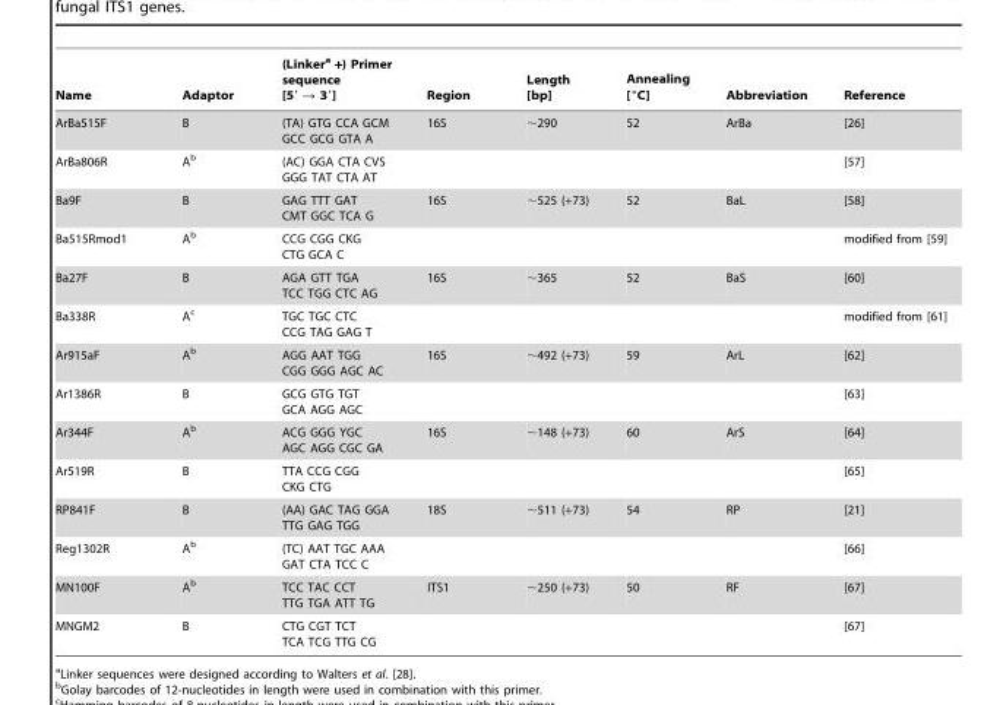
<table><thead><tr><td>Name</td><td>Adaptor</td><td>(Linker<sup>a</sup> +) Primer sequence [5′ → 3′]</td><td>Region</td><td>Length [bp]</td><td>Annealing [°C]</td><td>Abbreviation</td><td>Reference</td></tr></thead><tbody><tr><td>ArBa515F</td><td>B</td><td>(TA) GTG CCA GCM GCC GCG GTA A</td><td>16S</td><td>∼290</td><td>52</td><td>ArBa</td><td>[26]</td></tr><tr><td>ArBa806R</td><td>A<sup>b</sup></td><td>(AC) GGA CTA CVS GGG TAT CTA AT</td><td></td><td></td><td></td><td></td><td>[57]</td></tr><tr><td>Ba9F</td><td>B</td><td>GAG TTT GAT CMT GGC TCA G</td><td>16S</td><td>∼525 (+73)</td><td>52</td><td>BaL</td><td>[58]</td></tr><tr><td>Ba515Rmod1</td><td>A<sup>b</sup></td><td>CCG CGG CKG CTG GCA C</td><td></td><td></td><td></td><td></td><td>modified from [59]</td></tr><tr><td>Ba27F</td><td>B</td><td>AGA GTT TGA TCC TGG CTC AG</td><td>16S</td><td>∼365</td><td>52</td><td>BaS</td><td>[60]</td></tr><tr><td>Ba338R</td><td>A<sup>c</sup></td><td>TGC TGC CTC CCG TAG GAG T</td><td></td><td></td><td></td><td></td><td>modified from [61]</td></tr><tr><td>Ar915aF</td><td>A<sup>b</sup></td><td>AGG AAT TGG CGG GGG AGC AC</td><td>16S</td><td>∼492 (+73)</td><td>59</td><td>ArL</td><td>[62]</td></tr><tr><td>Ar1386R</td><td>B</td><td>GCG GTG TGT GCA AGG AGC</td><td></td><td></td><td></td><td></td><td>[63]</td></tr><tr><td>Ar344F</td><td>A<sup>b</sup></td><td>ACG GGG YGC AGC AGG CGC GA</td><td>16S</td><td>∼148 (+73)</td><td>60</td><td>ArS</td><td>[64]</td></tr><tr><td>Ar519R</td><td>B</td><td>TTA CCG CGG CKG CTG</td><td></td><td></td><td></td><td></td><td>[65]</td></tr><tr><td>RP841F</td><td>B</td><td>(AA) GAC TAG GGA TTG GAG TGG</td><td>18S</td><td>∼511 (+73)</td><td>54</td><td>RP</td><td>[21]</td></tr><tr><td>Reg1302R</td><td>A<sup>b</sup></td><td>(TC) AAT TGC AAA GAT CTA TCC C</td><td></td><td></td><td></td><td></td><td>[66]</td></tr><tr><td>MN100F</td><td>A<sup>b</sup></td><td>TCC TAC CCT TTG TGA ATT TG</td><td>ITS1</td><td>∼250 (+73)</td><td>50</td><td>RF</td><td>[67]</td></tr><tr><td>MNGM2</td><td>B</td><td>CTG CGT TCT TCA TCG TTG CG</td><td></td><td></td><td></td><td></td><td>[67]</td></tr></tbody></table>